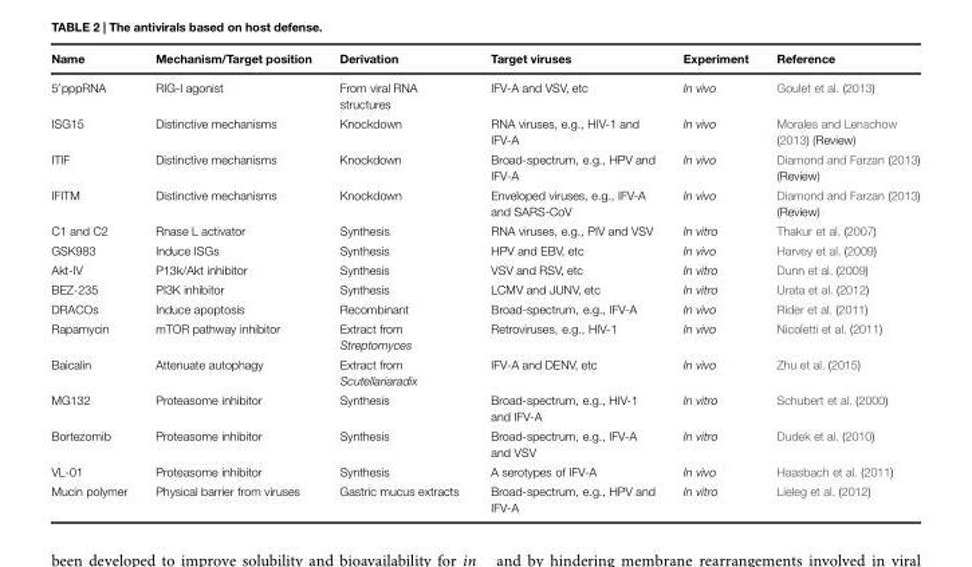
<table><thead><tr><td>Name</td><td>Mechanism/Target position</td><td>Derivation</td><td>Target viruses</td><td>Experiment</td><td>Reference</td></tr></thead><tbody><tr><td>5′pppRNA</td><td>RIG-I agonist</td><td>From viral RNA structures</td><td>IFV-A and VSV, etc</td><td>In vivo</td><td>Goulet et al. (2013)</td></tr><tr><td>ISG15</td><td>Distinctive mechanisms</td><td>Knockdown</td><td>RNA viruses, e.g., HIV-1 and IFV-A</td><td>In vivo</td><td>Morales and Lenschow (2013) (Review)</td></tr><tr><td>ITIF</td><td>Distinctive mechanisms</td><td>Knockdown</td><td>Broad-spectrum, e.g., HPV and IFV-A</td><td>In vivo</td><td>Diamond and Farzan (2013) (Review)</td></tr><tr><td>IFITM</td><td>Distinctive mechanisms</td><td>Knockdown</td><td>Enveloped viruses, e.g., IFV-A and SARS-CoV</td><td>In vivo</td><td>Diamond and Farzan (2013) (Review)</td></tr><tr><td>C1 and C2</td><td>Rnase L activator</td><td>Synthesis</td><td>RNA viruses, e.g., PIV and VSV</td><td>In vitro</td><td>Thakur et al. (2007)</td></tr><tr><td>GSK983</td><td>Induce ISGs</td><td>Synthesis</td><td>HPV and EBV, etc</td><td>In vivo</td><td>Harvey et al. (2009)</td></tr><tr><td>Akt-IV</td><td>P13k/Akt inhibitor</td><td>Synthesis</td><td>VSV and RSV, etc</td><td>In vitro</td><td>Dunn et al. (2009)</td></tr><tr><td>BEZ-235</td><td>PI3K inhibitor</td><td>Synthesis</td><td>LCMV and JUNV, etc</td><td>In vitro</td><td>Urata et al. (2012)</td></tr><tr><td>DRACOs</td><td>Induce apoptosis</td><td>Recombinant</td><td>Broad-spectrum, e.g., IFV-A</td><td>In vivo</td><td>Rider et al. (2011)</td></tr><tr><td>Rapamycin</td><td>mTOR pathway inhibitor</td><td>Extract from Streptomyces</td><td>Retroviruses, e.g., HIV-1</td><td>In vivo</td><td>Nicoletti et al. (2011)</td></tr><tr><td>Baicalin</td><td>Attenuate autophagy</td><td>Extract from Scutellariaradix</td><td>IFV-A and DENV, etc</td><td>In vivo</td><td>Zhu et al. (2015)</td></tr><tr><td>MG132</td><td>Proteasome inhibitor</td><td>Synthesis</td><td>Broad-spectrum, e.g., HIV-1 and IFV-A</td><td>In vitro</td><td>Schubert et al. (2000)</td></tr><tr><td>Bortezomib</td><td>Proteasome inhibitor</td><td>Synthesis</td><td>Broad-spectrum, e.g., IFV-A and VSV</td><td>In vitro</td><td>Dudek et al. (2010)</td></tr><tr><td>VL-01</td><td>Proteasome inhibitor</td><td>Synthesis</td><td>A serotypes of IFV-A</td><td>In vivo</td><td>Haasbach et al. (2011)</td></tr><tr><td>Mucin polymer</td><td>Physical barrier from viruses</td><td>Gastric mucus extracts</td><td>Broad-spectrum, e.g., HPV and IFV-A</td><td>In vitro</td><td>Lieleg et al. (2012)</td></tr></tbody></table>